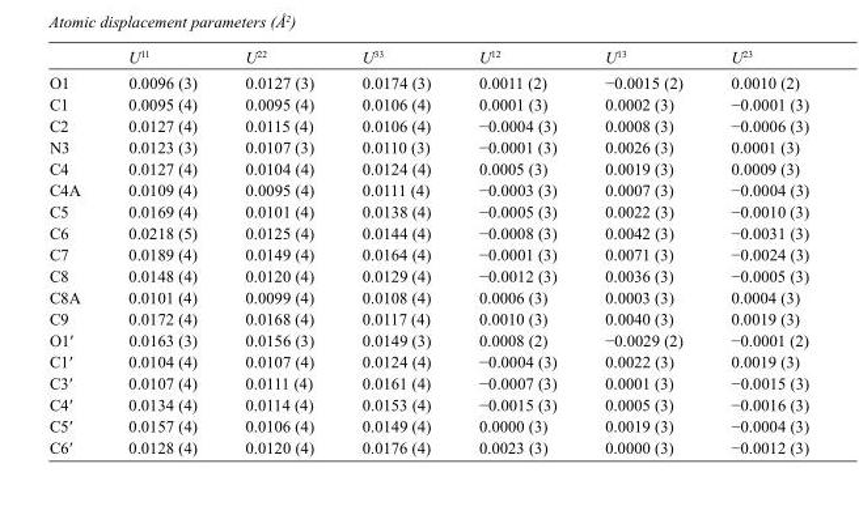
<table><thead><tr><td></td><td>U<sup>11</sup></td><td>U<sup>22</sup></td><td>U<sup>33</sup></td><td>U<sup>12</sup></td><td>U<sup>13</sup></td><td>U<sup>23</sup></td></tr></thead><tbody><tr><td>O1</td><td>0.0096 (3)</td><td>0.0127 (3)</td><td>0.0174 (3)</td><td>0.0011 (2)</td><td>−0.0015 (2)</td><td>0.0010 (2)</td></tr><tr><td>C1</td><td>0.0095 (4)</td><td>0.0095 (4)</td><td>0.0106 (4)</td><td>0.0001 (3)</td><td>0.0002 (3)</td><td>−0.0001 (3)</td></tr><tr><td>C2</td><td>0.0127 (4)</td><td>0.0115 (4)</td><td>0.0106 (4)</td><td>−0.0004 (3)</td><td>0.0008 (3)</td><td>−0.0006 (3)</td></tr><tr><td>N3</td><td>0.0123 (3)</td><td>0.0107 (3)</td><td>0.0110 (3)</td><td>−0.0001 (3)</td><td>0.0026 (3)</td><td>0.0001 (3)</td></tr><tr><td>C4</td><td>0.0127 (4)</td><td>0.0104 (4)</td><td>0.0124 (4)</td><td>0.0005 (3)</td><td>0.0019 (3)</td><td>0.0009 (3)</td></tr><tr><td>C4A</td><td>0.0109 (4)</td><td>0.0095 (4)</td><td>0.0111 (4)</td><td>−0.0003 (3)</td><td>0.0007 (3)</td><td>−0.0004 (3)</td></tr><tr><td>C5</td><td>0.0169 (4)</td><td>0.0101 (4)</td><td>0.0138 (4)</td><td>−0.0005 (3)</td><td>0.0022 (3)</td><td>−0.0010 (3)</td></tr><tr><td>C6</td><td>0.0218 (5)</td><td>0.0125 (4)</td><td>0.0144 (4)</td><td>−0.0008 (3)</td><td>0.0042 (3)</td><td>−0.0031 (3)</td></tr><tr><td>C7</td><td>0.0189 (4)</td><td>0.0149 (4)</td><td>0.0164 (4)</td><td>−0.0001 (3)</td><td>0.0071 (3)</td><td>−0.0024 (3)</td></tr><tr><td>C8</td><td>0.0148 (4)</td><td>0.0120 (4)</td><td>0.0129 (4)</td><td>−0.0012 (3)</td><td>0.0036 (3)</td><td>−0.0005 (3)</td></tr><tr><td>C8A</td><td>0.0101 (4)</td><td>0.0099 (4)</td><td>0.0108 (4)</td><td>0.0006 (3)</td><td>0.0003 (3)</td><td>0.0004 (3)</td></tr><tr><td>C9</td><td>0.0172 (4)</td><td>0.0168 (4)</td><td>0.0117 (4)</td><td>0.0010 (3)</td><td>0.0040 (3)</td><td>0.0019 (3)</td></tr><tr><td>O1′</td><td>0.0163 (3)</td><td>0.0156 (3)</td><td>0.0149 (3)</td><td>0.0008 (2)</td><td>−0.0029 (2)</td><td>−0.0001 (2)</td></tr><tr><td>C1′</td><td>0.0104 (4)</td><td>0.0107 (4)</td><td>0.0124 (4)</td><td>−0.0004 (3)</td><td>0.0022 (3)</td><td>0.0019 (3)</td></tr><tr><td>C3′</td><td>0.0107 (4)</td><td>0.0111 (4)</td><td>0.0161 (4)</td><td>−0.0007 (3)</td><td>0.0001 (3)</td><td>−0.0015 (3)</td></tr><tr><td>C4′</td><td>0.0134 (4)</td><td>0.0114 (4)</td><td>0.0153 (4)</td><td>−0.0015 (3)</td><td>0.0005 (3)</td><td>−0.0016 (3)</td></tr><tr><td>C5′</td><td>0.0157 (4)</td><td>0.0106 (4)</td><td>0.0149 (4)</td><td>0.0000 (3)</td><td>0.0019 (3)</td><td>−0.0004 (3)</td></tr><tr><td>C6′</td><td>0.0128 (4)</td><td>0.0120 (4)</td><td>0.0176 (4)</td><td>0.0023 (3)</td><td>0.0000 (3)</td><td>−0.0012 (3)</td></tr></tbody></table>